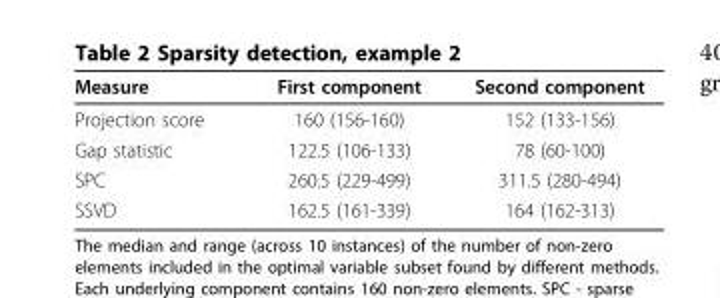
<table><thead><tr><td>Measure</td><td>First component</td><td>Second component</td></tr></thead><tbody><tr><td>Projection score</td><td>160 (156-160)</td><td>152 (133-156)</td></tr><tr><td>Gap statistic</td><td>122.5 (106-133)</td><td>78 (60-100)</td></tr><tr><td>SPC</td><td>260.5 (229-499)</td><td>311.5 (280-494)</td></tr><tr><td>SSVD</td><td>162.5 (161-339)</td><td>164 (162-313)</td></tr></tbody></table>